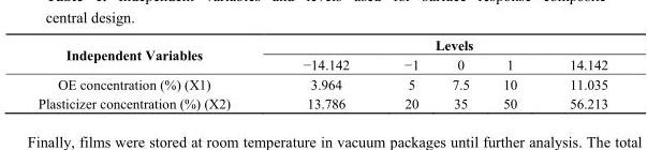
<table><tbody><tr><td rowspan="2">Independent Variables</td><td colspan="5">Levels</td></tr><tr><td>−14.142</td><td>−1</td><td>0</td><td>1</td><td>14.142</td></tr><tr><td>OE concentration (%) (X1)</td><td>3.964</td><td>5</td><td>7.5</td><td>10</td><td>11.035</td></tr><tr><td>Plasticizer concentration (%) (X2)</td><td>13.786</td><td>20</td><td>35</td><td>50</td><td>56.213</td></tr></tbody></table>